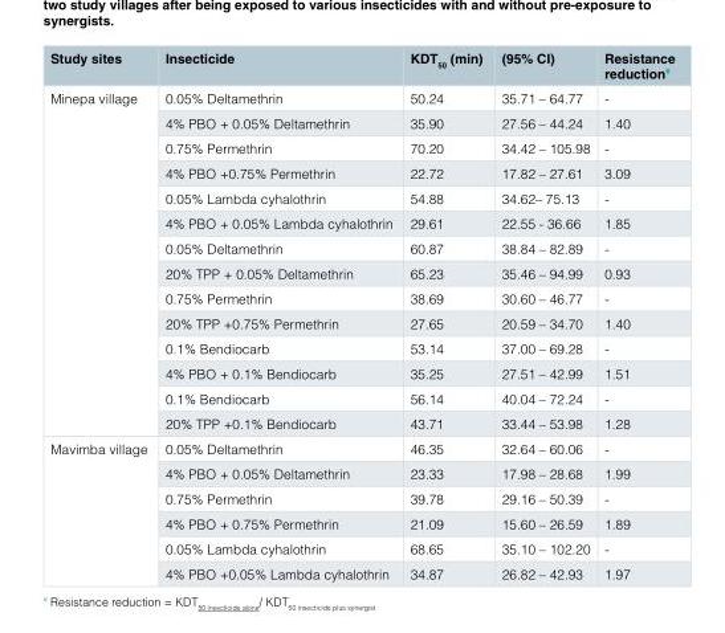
<table><thead><tr><td>Study sites</td><td>Insecticide</td><td>KDT<sub>50</sub> (min)</td><td>(95% CI)</td><td>Resistance reduction<sup>¥</sup></td></tr></thead><tbody><tr><td rowspan="14">Minepa village</td><td>0.05% Deltamethrin</td><td>50.24</td><td>35.71 – 64.77</td><td>-</td></tr><tr><td>4% PBO + 0.05% Deltamethrin</td><td>35.90</td><td>27.56 – 44.24</td><td>1.40</td></tr><tr><td>0.75% Permethrin</td><td>70.20</td><td>34.42 – 105.98</td><td>-</td></tr><tr><td>4% PBO +0.75% Permethrin</td><td>22.72</td><td>17.82 – 27.61</td><td>3.09</td></tr><tr><td>0.05% Lambda cyhalothrin</td><td>54.88</td><td>34.62– 75.13</td><td>-</td></tr><tr><td>4% PBO + 0.05% Lambda cyhalothrin</td><td>29.61</td><td>22.55 - 36.66</td><td>1.85</td></tr><tr><td>0.05% Deltamethrin</td><td>60.87</td><td>38.84 – 82.89</td><td>-</td></tr><tr><td>20% TPP + 0.05% Deltamethrin</td><td>65.23</td><td>35.46 – 94.99</td><td>0.93</td></tr><tr><td>0.75% Permethrin</td><td>38.69</td><td>30.60 – 46.77</td><td>-</td></tr><tr><td>20% TPP +0.75% Permethrin</td><td>27.65</td><td>20.59 – 34.70</td><td>1.40</td></tr><tr><td>0.1% Bendiocarb</td><td>53.14</td><td>37.00 – 69.28</td><td>-</td></tr><tr><td>4% PBO + 0.1% Bendiocarb</td><td>35.25</td><td>27.51 – 42.99</td><td>1.51</td></tr><tr><td>0.1% Bendiocarb</td><td>56.14</td><td>40.04 – 72.24</td><td>-</td></tr><tr><td>20% TPP +0.1% Bendiocarb</td><td>43.71</td><td>33.44 – 53.98</td><td>1.28</td></tr><tr><td rowspan="6">Mavimba village</td><td>0.05% Deltamethrin</td><td>46.35</td><td>32.64 – 60.06</td><td>-</td></tr><tr><td>4% PBO + 0.05% Deltamethrin</td><td>23.33</td><td>17.98 – 28.68</td><td>1.99</td></tr><tr><td>0.75% Permethrin</td><td>39.78</td><td>29.16 – 50.39</td><td>-</td></tr><tr><td>4% PBO + 0.75% Permethrin</td><td>21.09</td><td>15.60 – 26.59</td><td>1.89</td></tr><tr><td>0.05% Lambda cyhalothrin</td><td>68.65</td><td>35.10 – 102.20</td><td>-</td></tr><tr><td>4% PBO +0.05% Lambda cyhalothrin</td><td>34.87</td><td>26.82 – 42.93</td><td>1.97</td></tr></tbody></table>